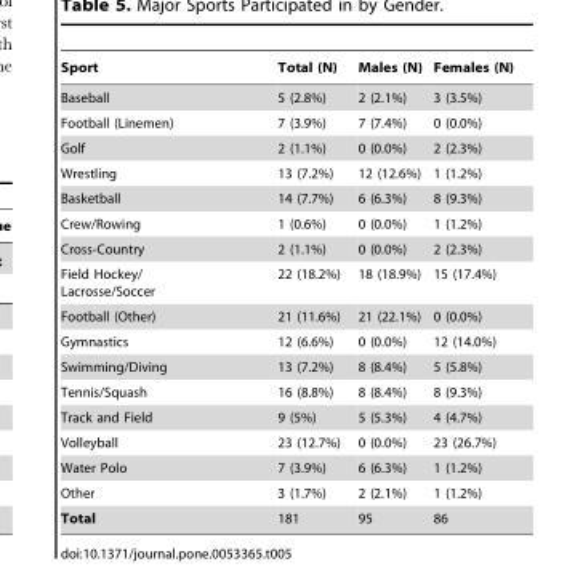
<table><thead><tr><td>Sport</td><td>Total (N)</td><td>Males (N)</td><td>Females (N)</td></tr></thead><tbody><tr><td>Baseball</td><td>5 (2.8%)</td><td>2 (2.1%)</td><td>3 (3.5%)</td></tr><tr><td>Football (Linemen)</td><td>7 (3.9%)</td><td>7 (7.4%)</td><td>0 (0.0%)</td></tr><tr><td>Golf</td><td>2 (1.1%)</td><td>0 (0.0%)</td><td>2 (2.3%)</td></tr><tr><td>Wrestling</td><td>13 (7.2%)</td><td>12 (12.6%)</td><td>1 (1.2%)</td></tr><tr><td>Basketball</td><td>14 (7.7%)</td><td>6 (6.3%)</td><td>8 (9.3%)</td></tr><tr><td>Crew/Rowing</td><td>1 (0.6%)</td><td>0 (0.0%)</td><td>1 (1.2%)</td></tr><tr><td>Cross-Country</td><td>2 (1.1%)</td><td>0 (0.0%)</td><td>2 (2.3%)</td></tr><tr><td>Field Hockey/ Lacrosse/Soccer</td><td>22 (18.2%)</td><td>18 (18.9%)</td><td>15 (17.4%)</td></tr><tr><td>Football (Other)</td><td>21 (11.6%)</td><td>21 (22.1%)</td><td>0 (0.0%)</td></tr><tr><td>Gymnastics</td><td>12 (6.6%)</td><td>0 (0.0%)</td><td>12 (14.0%)</td></tr><tr><td>Swimming/Diving</td><td>13 (7.2%)</td><td>8 (8.4%)</td><td>5 (5.8%)</td></tr><tr><td>Tennis/Squash</td><td>16 (8.8%)</td><td>8 (8.4%)</td><td>8 (9.3%)</td></tr><tr><td>Track and Field</td><td>9 (5%)</td><td>5 (5.3%)</td><td>4 (4.7%)</td></tr><tr><td>Volleyball</td><td>23 (12.7%)</td><td>0 (0.0%)</td><td>23 (26.7%)</td></tr><tr><td>Water Polo</td><td>7 (3.9%)</td><td>6 (6.3%)</td><td>1 (1.2%)</td></tr><tr><td>Other</td><td>3 (1.7%)</td><td>2 (2.1%)</td><td>1 (1.2%)</td></tr><tr><td>Total</td><td>181</td><td>95</td><td>86</td></tr></tbody></table>